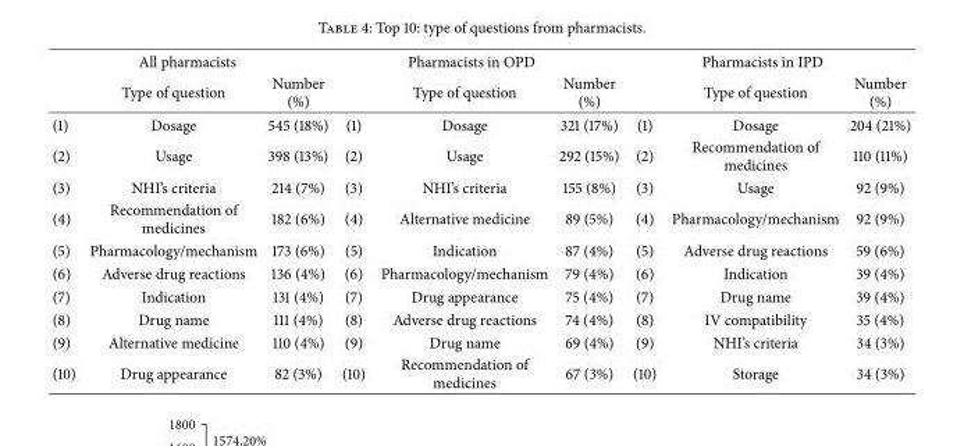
<table><thead><tr><td colspan="3">All pharmacists</td><td colspan="3">Pharmacists in OPD</td><td colspan="3">Pharmacists in IPD</td></tr><tr><td></td><td>Type of question</td><td>Number (%)</td><td></td><td>Type of question</td><td>Number (%)</td><td></td><td>Type of question</td><td>Number (%)</td></tr></thead><tbody><tr><td>(1)</td><td>Dosage</td><td>545 (18%)</td><td>(1)</td><td>Dosage</td><td>321 (17%)</td><td>(1)</td><td>Dosage</td><td>204 (21%)</td></tr><tr><td>(2)</td><td>Usage</td><td>398 (13%)</td><td>(2)</td><td>Usage</td><td>292 (15%)</td><td>(2)</td><td>Recommendation of medicines</td><td>110 (11%)</td></tr><tr><td>(3)</td><td>NHI’s criteria</td><td>214 (7%)</td><td>(3)</td><td>NHI’s criteria</td><td>155 (8%)</td><td>(3)</td><td>Usage</td><td>92 (9%)</td></tr><tr><td>(4)</td><td>Recommendation of medicines</td><td>182 (6%)</td><td>(4)</td><td>Alternative medicine</td><td>89 (5%)</td><td>(4)</td><td>Pharmacology/mechanism</td><td>92 (9%)</td></tr><tr><td>(5)</td><td>Pharmacology/mechanism</td><td>173 (6%)</td><td>(5)</td><td>Indication</td><td>87 (4%)</td><td>(5)</td><td>Adverse drug reactions</td><td>59 (6%)</td></tr><tr><td>(6)</td><td>Adverse drug reactions</td><td>136 (4%)</td><td>(6)</td><td>Pharmacology/mechanism</td><td>79 (4%)</td><td>(6)</td><td>Indication</td><td>39 (4%)</td></tr><tr><td>(7)</td><td>Indication</td><td>131 (4%)</td><td>(7)</td><td>Drug appearance</td><td>75 (4%)</td><td>(7)</td><td>Drug name</td><td>39 (4%)</td></tr><tr><td>(8)</td><td>Drug name</td><td>111 (4%)</td><td>(8)</td><td>Adverse drug reactions</td><td>74 (4%)</td><td>(8)</td><td>IV compatibility</td><td>35 (4%)</td></tr><tr><td>(9)</td><td>Alternative medicine</td><td>110 (4%)</td><td>(9)</td><td>Drug name</td><td>69 (4%)</td><td>(9)</td><td>NHI’s criteria</td><td>34 (3%)</td></tr><tr><td>(10)</td><td>Drug appearance</td><td>82 (3%)</td><td>(10)</td><td>Recommendation of medicines</td><td>67 (3%)</td><td>(10)</td><td>Storage</td><td>34 (3%)</td></tr></tbody></table>